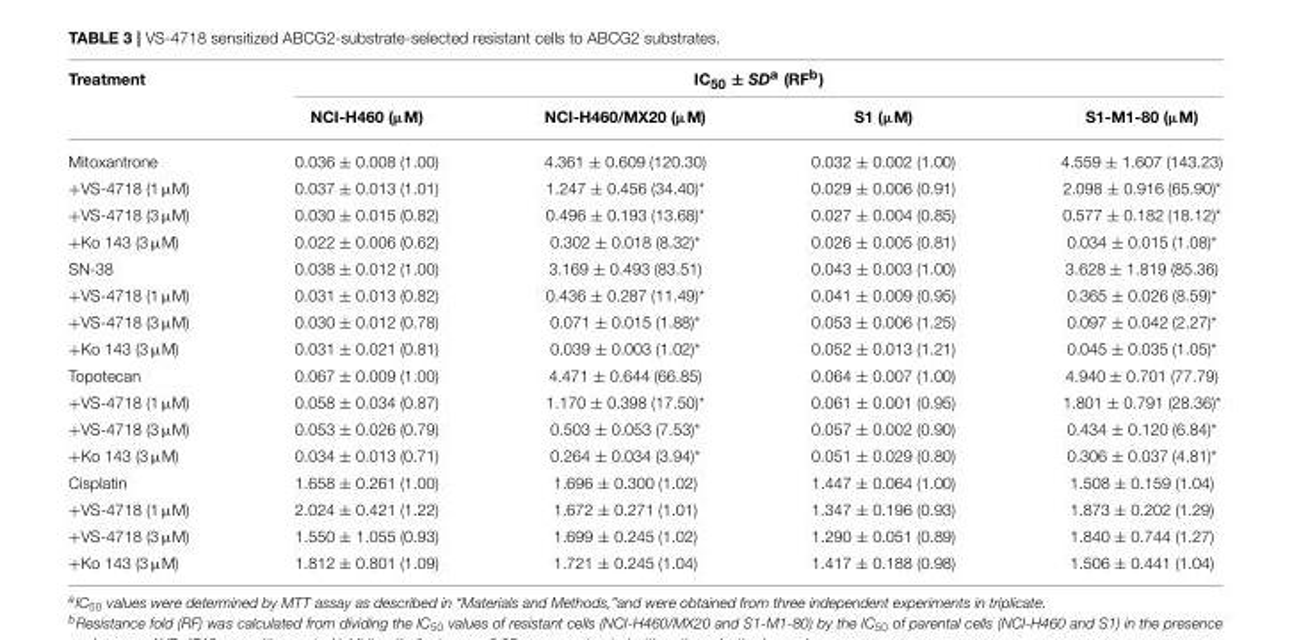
<table><thead><tr><td rowspan="2">Treatment</td><td colspan="4">IC<sub>50</sub> ± SD<sup>a</sup> (RF<sup>b</sup>)</td></tr><tr><td>NCI-H460 (µM)</td><td>NCI-H460/MX20 (µM)</td><td>S1 (µM)</td><td>S1-M1-80 (µM)</td></tr></thead><tbody><tr><td>Mitoxantrone</td><td>0.036 ± 0.008 (1.00)</td><td>4.361 ± 0.609 (120.30)</td><td>0.032 ± 0.002 (1.00)</td><td>4.559 ± 1.607 (143.23)</td></tr><tr><td>+VS-4718 (1 µM)</td><td>0.037 ± 0.013 (1.01)</td><td>1.247 ± 0.456 (34.40)*</td><td>0.029 ± 0.006 (0.91)</td><td>2.098 ± 0.916 (65.90)*</td></tr><tr><td>+VS-4718 (3 µM)</td><td>0.030 ± 0.015 (0.82)</td><td>0.496 ± 0.193 (13.68)*</td><td>0.027 ± 0.004 (0.85)</td><td>0.577 ± 0.182 (18.12)*</td></tr><tr><td>+Ko 143 (3 µM)</td><td>0.022 ± 0.006 (0.62)</td><td>0.302 ± 0.018 (8.32)*</td><td>0.026 ± 0.005 (0.81)</td><td>0.034 ± 0.015 (1.08)*</td></tr><tr><td>SN-38</td><td>0.038 ± 0.012 (1.00)</td><td>3.169 ± 0.493 (83.51)</td><td>0.043 ± 0.003 (1.00)</td><td>3.628 ± 1.819 (85.36)</td></tr><tr><td>+VS-4718 (1 µM)</td><td>0.031 ± 0.013 (0.82)</td><td>0.436 ± 0.287 (11.49)*</td><td>0.041 ± 0.009 (0.95)</td><td>0.365 ± 0.026 (8.59)*</td></tr><tr><td>+VS-4718 (3 µM)</td><td>0.030 ± 0.012 (0.78)</td><td>0.071 ± 0.015 (1.88)*</td><td>0.053 ± 0.006 (1.25)</td><td>0.097 ± 0.042 (2.27)*</td></tr><tr><td>+Ko 143 (3 µM)</td><td>0.031 ± 0.021 (0.81)</td><td>0.039 ± 0.003 (1.02)*</td><td>0.052 ± 0.013 (1.21)</td><td>0.045 ± 0.035 (1.05)*</td></tr><tr><td>Topotecan</td><td>0.067 ± 0.009 (1.00)</td><td>4.471 ± 0.644 (66.85)</td><td>0.064 ± 0.007 (1.00)</td><td>4.940 ± 0.701 (77.79)</td></tr><tr><td>+VS-4718 (1 µM)</td><td>0.058 ± 0.034 (0.87)</td><td>1.170 ± 0.398 (17.50)*</td><td>0.061 ± 0.001 (0.95)</td><td>1.801 ± 0.791 (28.36)*</td></tr><tr><td>+VS-4718 (3 µM)</td><td>0.053 ± 0.026 (0.79)</td><td>0.503 ± 0.053 (7.53)*</td><td>0.057 ± 0.002 (0.90)</td><td>0.434 ± 0.120 (6.84)*</td></tr><tr><td>+Ko 143 (3 µM)</td><td>0.034 ± 0.013 (0.71)</td><td>0.264 ± 0.034 (3.94)*</td><td>0.051 ± 0.029 (0.80)</td><td>0.306 ± 0.037 (4.81)*</td></tr><tr><td>Cisplatin</td><td>1.658 ± 0.261 (1.00)</td><td>1.696 ± 0.300 (1.02)</td><td>1.447 ± 0.064 (1.00)</td><td>1.508 ± 0.159 (1.04)</td></tr><tr><td>+VS-4718 (1 µM)</td><td>2.024 ± 0.421 (1.22)</td><td>1.672 ± 0.271 (1.01)</td><td>1.347 ± 0.196 (0.93)</td><td>1.873 ± 0.202 (1.29)</td></tr><tr><td>+VS-4718 (3 µM)</td><td>1.550 ± 1.055 (0.93)</td><td>1.699 ± 0.245 (1.02)</td><td>1.290 ± 0.051 (0.89)</td><td>1.840 ± 0.744 (1.27)</td></tr><tr><td>+Ko 143 (3 µM)</td><td>1.812 ± 0.801 (1.09)</td><td>1.721 ± 0.245 (1.04)</td><td>1.417 ± 0.188 (0.98)</td><td>1.506 ± 0.441 (1.04)</td></tr></tbody></table>